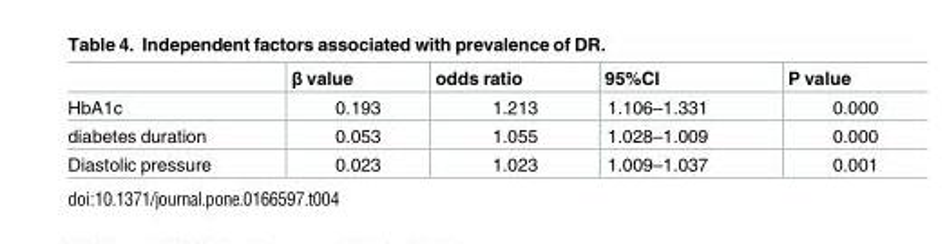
<table><thead><tr><td></td><td>β value</td><td>odds ratio</td><td>95%CI</td><td>P value</td></tr></thead><tbody><tr><td>HbA1c</td><td>0.193</td><td>1.213</td><td>1.106–1.331</td><td>0.000</td></tr><tr><td>diabetes duration</td><td>0.053</td><td>1.055</td><td>1.028–1.009</td><td>0.000</td></tr><tr><td>Diastolic pressure</td><td>0.023</td><td>1.023</td><td>1.009–1.037</td><td>0.001</td></tr></tbody></table>